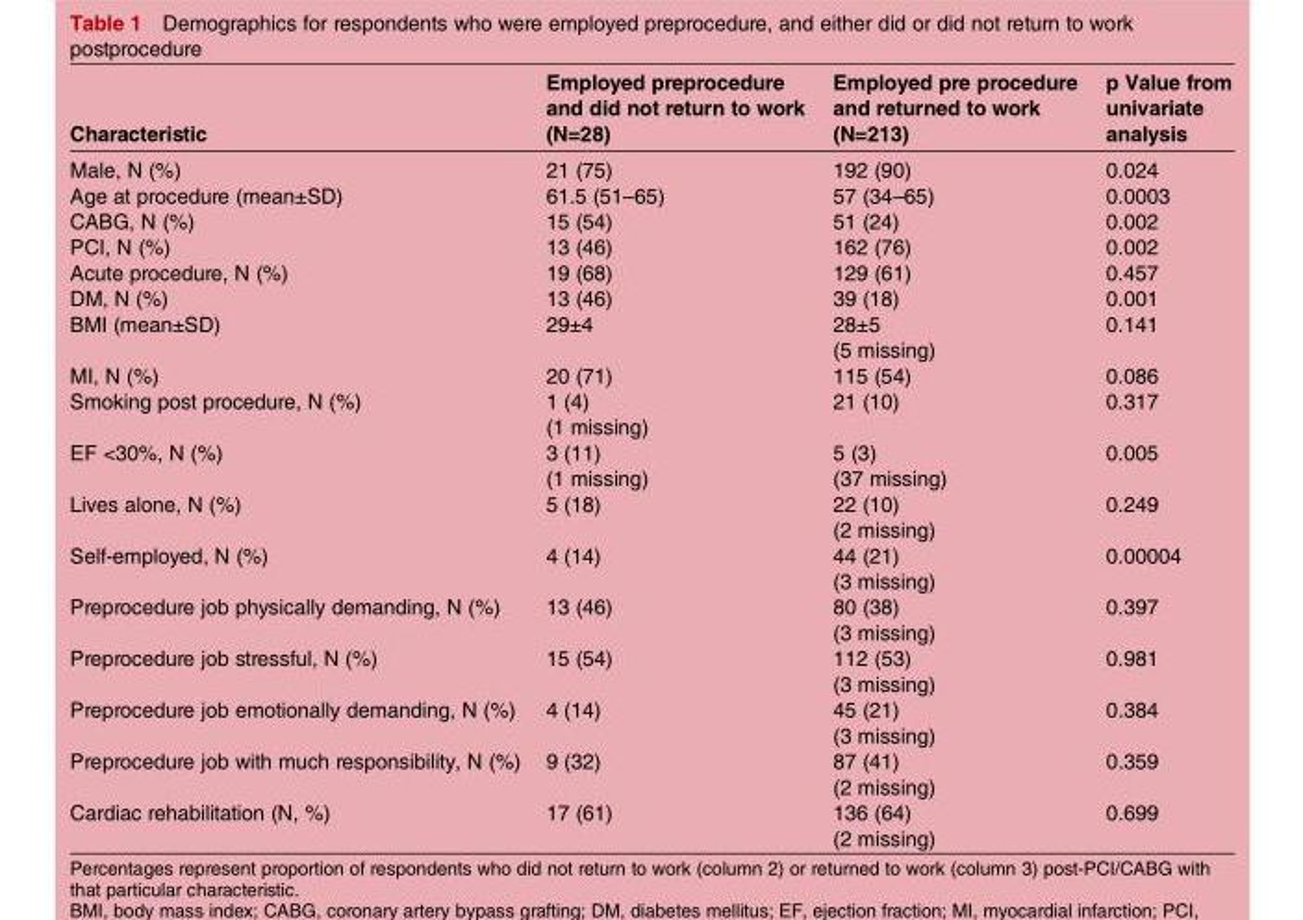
<table><thead><tr><td>Characteristic</td><td>Employed preprocedure and did not return to work (N=28)</td><td>Employed pre procedure and returned to work (N=213)</td><td>p Value from univariate analysis</td></tr></thead><tbody><tr><td>Male, N (%)</td><td>21 (75)</td><td>192 (90)</td><td>0.024</td></tr><tr><td>Age at procedure (mean±SD)</td><td>61.5 (51–65)</td><td>57 (34–65)</td><td>0.0003</td></tr><tr><td>CABG, N (%)</td><td>15 (54)</td><td>51 (24)</td><td>0.002</td></tr><tr><td>PCI, N (%)</td><td>13 (46)</td><td>162 (76)</td><td>0.002</td></tr><tr><td>Acute procedure, N (%)</td><td>19 (68)</td><td>129 (61)</td><td>0.457</td></tr><tr><td>DM, N (%)</td><td>13 (46)</td><td>39 (18)</td><td>0.001</td></tr><tr><td>BMI (mean±SD)</td><td>29±4</td><td>28±5 (5 missing)</td><td>0.141</td></tr><tr><td>MI, N (%)</td><td>20 (71)</td><td>115 (54)</td><td>0.086</td></tr><tr><td>Smoking post procedure, N (%)</td><td>1 (4) (1 missing)</td><td>21 (10)</td><td>0.317</td></tr><tr><td>EF &lt;30%, N (%)</td><td>3 (11) (1 missing)</td><td>5 (3) (37 missing)</td><td>0.005</td></tr><tr><td>Lives alone, N (%)</td><td>5 (18)</td><td>22 (10) (2 missing)</td><td>0.249</td></tr><tr><td>Self-employed, N (%)</td><td>4 (14)</td><td>44 (21) (3 missing)</td><td>0.00004</td></tr><tr><td>Preprocedure job physically demanding, N (%)</td><td>13 (46)</td><td>80 (38) (3 missing)</td><td>0.397</td></tr><tr><td>Preprocedure job stressful, N (%)</td><td>15 (54)</td><td>112 (53) (3 missing)</td><td>0.981</td></tr><tr><td>Preprocedure job emotionally demanding, N (%)</td><td>4 (14)</td><td>45 (21) (3 missing)</td><td>0.384</td></tr><tr><td>Preprocedure job with much responsibility, N (%)</td><td>9 (32)</td><td>87 (41) (2 missing)</td><td>0.359</td></tr><tr><td>Cardiac rehabilitation (N, %)</td><td>17 (61)</td><td>136 (64) (2 missing)</td><td>0.699</td></tr></tbody></table>